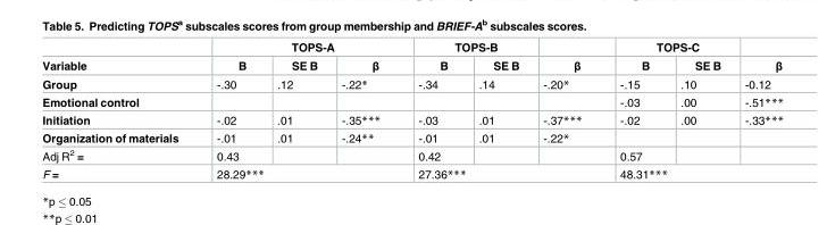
<table><thead><tr><td rowspan="2">Variable</td><td colspan="3">TOPS-A</td><td colspan="2">TOPS-B</td><td rowspan="2">β</td><td colspan="2">TOPS-C</td><td rowspan="2">β</td></tr><tr><td>B</td><td>SE B</td><td>β</td><td>B</td><td>SE B</td><td>B</td><td>SE B</td></tr></thead><tbody><tr><td>Group</td><td>-.30</td><td>.12</td><td>-.22*</td><td>-.34</td><td>.14</td><td>-.20*</td><td>-.15</td><td>.10</td><td>-0.12</td></tr><tr><td>Emotional control</td><td></td><td></td><td></td><td></td><td></td><td></td><td>-.03</td><td>.00</td><td>-.51***</td></tr><tr><td>Initiation</td><td>-.02</td><td>.01</td><td>-.35***</td><td>-.03</td><td>.01</td><td>-.37***</td><td>-.02</td><td>.00</td><td>-.33***</td></tr><tr><td>Organization of materials</td><td>-.01</td><td>.01</td><td>-.24**</td><td>-.01</td><td>.01</td><td>-.22*</td><td></td><td></td><td></td></tr><tr><td>Adj R<sup>2</sup> =</td><td>0.43</td><td></td><td></td><td>0.42</td><td></td><td></td><td>0.57</td><td></td><td></td></tr><tr><td>F =</td><td colspan="3">28.29***</td><td colspan="3">27.36***</td><td colspan="3">48.31***</td></tr></tbody></table>